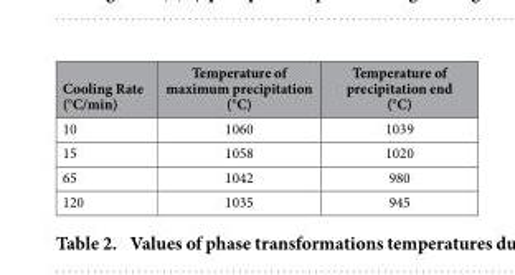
<table><thead><tr><td>Cooling Rate (°C/min)</td><td>Temperature of maximum precipitation (°C)</td><td>Temperature of precipitation end (°C)</td></tr></thead><tbody><tr><td>10</td><td>1060</td><td>1039</td></tr><tr><td>15</td><td>1058</td><td>1020</td></tr><tr><td>65</td><td>1042</td><td>980</td></tr><tr><td>120</td><td>1035</td><td>945</td></tr></tbody></table>